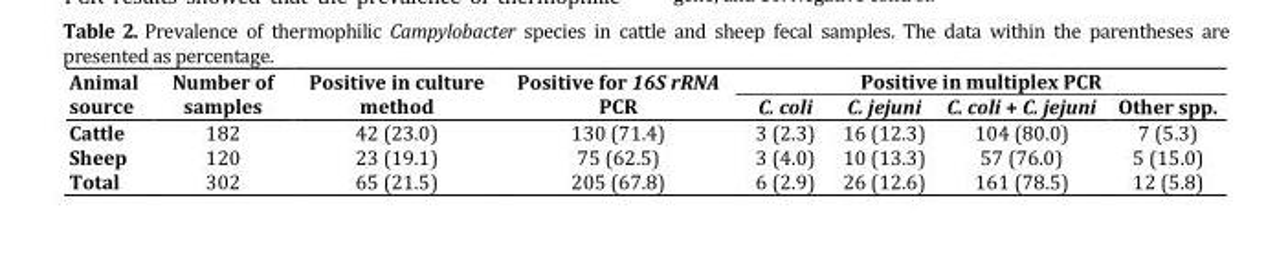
<table><thead><tr><td rowspan="2">Animal source</td><td rowspan="2">Number of samples</td><td rowspan="2">Positive in culture method</td><td rowspan="2">Positive for 16S rRNA PCR</td><td colspan="4">Positive in multiplex PCR</td></tr><tr><td>C. coli</td><td>C. jejuni</td><td>C. coli + C. jejuni</td><td>Other spp.</td></tr></thead><tbody><tr><td>Cattle</td><td>182</td><td>42 (23.0)</td><td>130 (71.4)</td><td>3 (2.3)</td><td>16 (12.3)</td><td>104 (80.0)</td><td>7 (5.3)</td></tr><tr><td>Sheep</td><td>120</td><td>23 (19.1)</td><td>75 (62.5)</td><td>3 (4.0)</td><td>10 (13.3)</td><td>57 (76.0)</td><td>5 (15.0)</td></tr><tr><td>Total</td><td>302</td><td>65 (21.5)</td><td>205 (67.8)</td><td>6 (2.9)</td><td>26 (12.6)</td><td>161 (78.5)</td><td>12 (5.8)</td></tr></tbody></table>